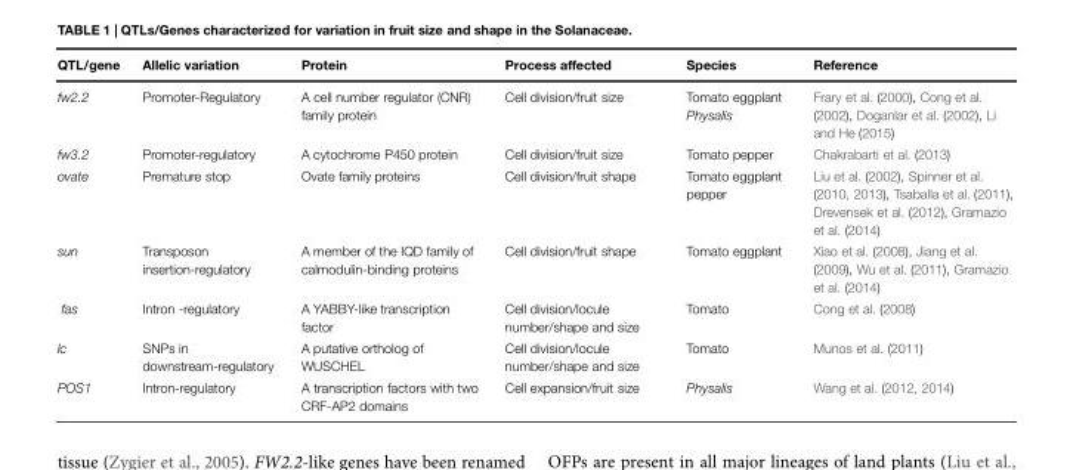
<table><thead><tr><td>QTL/gene</td><td>Allelic variation</td><td>Protein</td><td>Process affected</td><td>Species</td><td>Reference</td></tr></thead><tbody><tr><td>fw2.2</td><td>Promoter-Regulatory</td><td>A cell number regulator (CNR) family protein</td><td>Cell division/fruit size</td><td>Tomato eggplant Physalis</td><td>Frary et al. (2000), Cong et al. (2002), Doganlar et al. (2002), Li and He (2015)</td></tr><tr><td>fw3.2</td><td>Promoter-regulatory</td><td>A cytochrome P450 protein</td><td>Cell division/fruit size</td><td>Tomato pepper</td><td>Chakrabarti et al. (2013)</td></tr><tr><td>ovate</td><td>Premature stop</td><td>Ovate family proteins</td><td>Cell division/fruit shape</td><td>Tomato eggplant pepper</td><td>Liu et al. (2002), Spinner et al. (2010, 2013), Tsaballa et al. (2011), Drevensek et al. (2012), Gramazio et al. (2014)</td></tr><tr><td>sun</td><td>Transposon insertion-regulatory</td><td>A member of the IQD family of calmodulin-binding proteins</td><td>Cell division/fruit shape</td><td>Tomato eggplant</td><td>Xiao et al. (2008), Jiang et al. (2009), Wu et al. (2011), Gramazio et al. (2014)</td></tr><tr><td>fas</td><td>Intron -regulatory</td><td>A YABBY-like transcription factor</td><td>Cell division/locule number/shape and size</td><td>Tomato</td><td>Cong et al. (2008)</td></tr><tr><td>lc</td><td>SNPs in downstream-regulatory</td><td>A putative ortholog of WUSCHEL</td><td>Cell division/locule number/shape and size</td><td>Tomato</td><td>Munos et al. (2011)</td></tr><tr><td>POS1</td><td>Intron-regulatory</td><td>A transcription factors with two CRF-AP2 domains</td><td>Cell expansion/fruit size</td><td>Physalis</td><td>Wang et al. (2012, 2014)</td></tr></tbody></table>